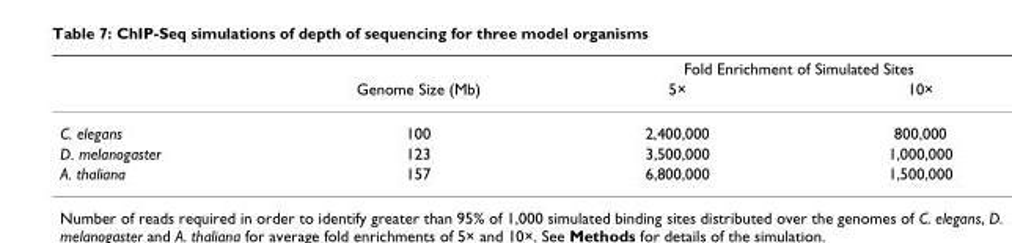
<table><thead><tr><td rowspan="2"></td><td rowspan="2">Genome Size (Mb)</td><td colspan="2">Fold Enrichment of Simulated Sites</td></tr><tr><td>5×</td><td>10×</td></tr></thead><tbody><tr><td>C. elegans</td><td>100</td><td>2,400,000</td><td>800,000</td></tr><tr><td>D. melanogaster</td><td>123</td><td>3,500,000</td><td>1,000,000</td></tr><tr><td>A. thaliana</td><td>157</td><td>6,800,000</td><td>1,500,000</td></tr></tbody></table>